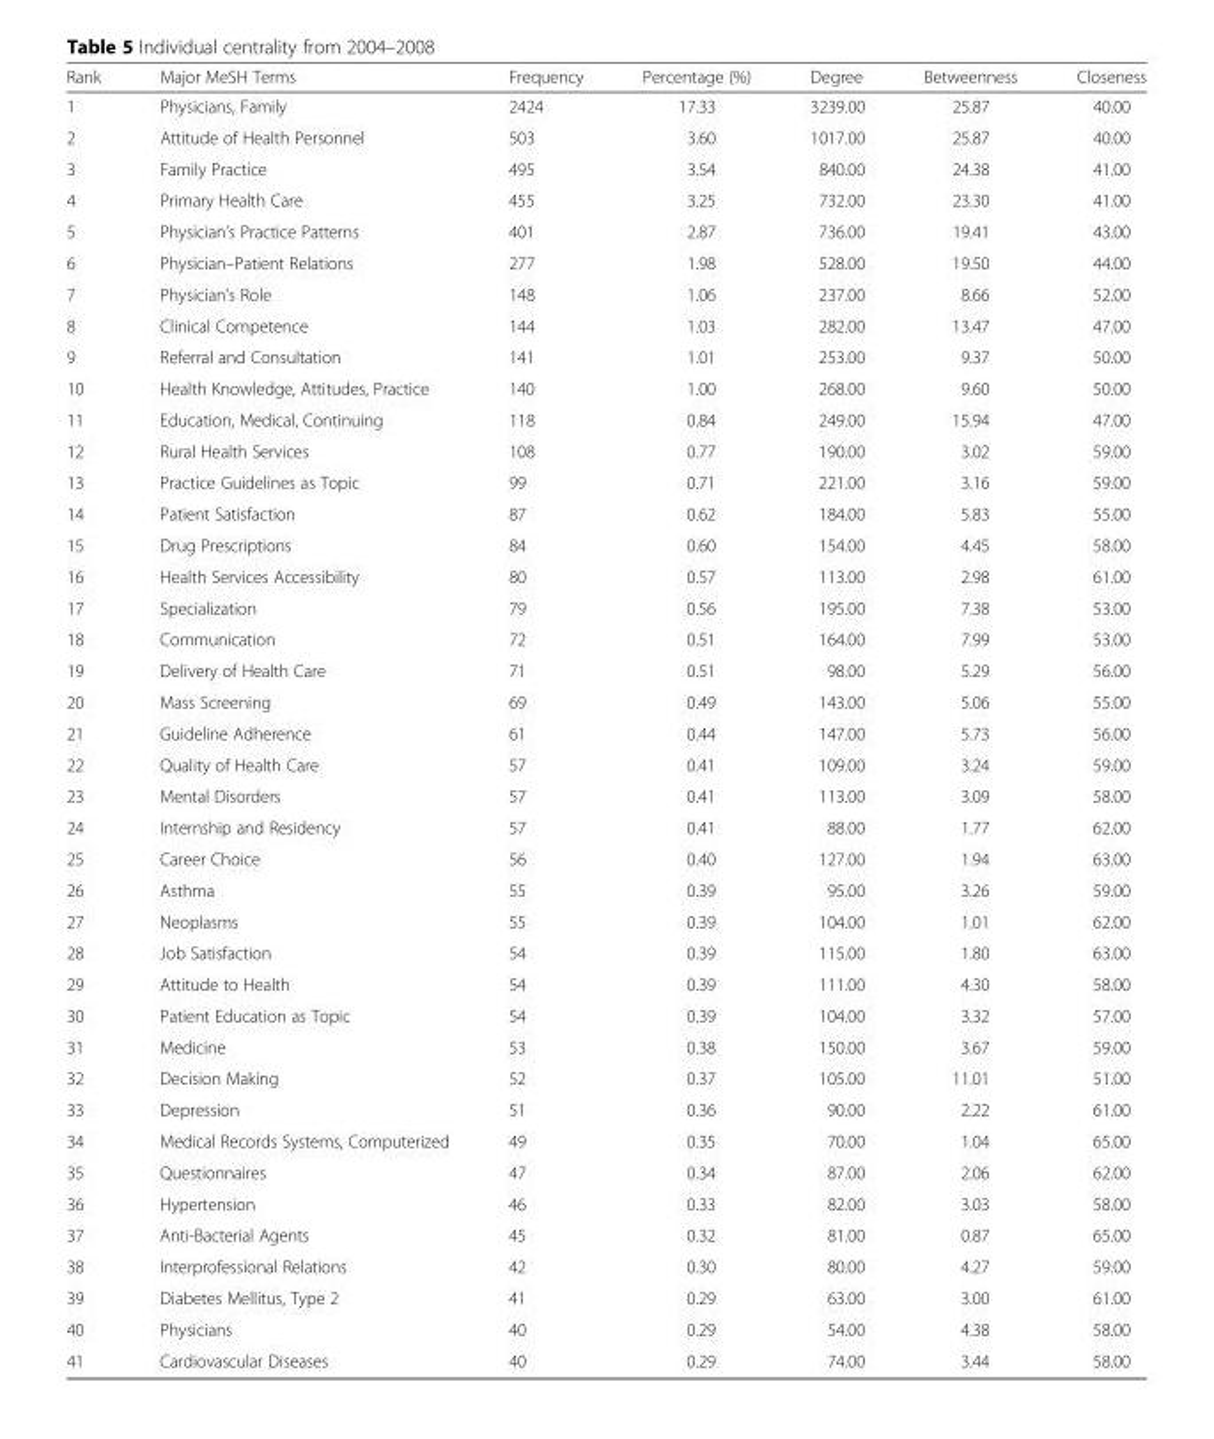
<table><thead><tr><td>Rank</td><td>Major MeSH Terms</td><td>Frequency</td><td>Percentage (%)</td><td>Degree</td><td>Betweenness</td><td>Closeness</td></tr></thead><tbody><tr><td>1</td><td>Physicians, Family</td><td>2424</td><td>17.33</td><td>3239.00</td><td>25.87</td><td>40.00</td></tr><tr><td>2</td><td>Attitude of Health Personnel</td><td>503</td><td>3.60</td><td>1017.00</td><td>25.87</td><td>40.00</td></tr><tr><td>3</td><td>Family Practice</td><td>495</td><td>3.54</td><td>840.00</td><td>24.38</td><td>41.00</td></tr><tr><td>4</td><td>Primary Health Care</td><td>455</td><td>3.25</td><td>732.00</td><td>23.30</td><td>41.00</td></tr><tr><td>5</td><td>Physician’s Practice Patterns</td><td>401</td><td>2.87</td><td>736.00</td><td>19.41</td><td>43.00</td></tr><tr><td>6</td><td>Physician–Patient Relations</td><td>277</td><td>1.98</td><td>528.00</td><td>19.50</td><td>44.00</td></tr><tr><td>7</td><td>Physician’s Role</td><td>148</td><td>1.06</td><td>237.00</td><td>8.66</td><td>52.00</td></tr><tr><td>8</td><td>Clinical Competence</td><td>144</td><td>1.03</td><td>282.00</td><td>13.47</td><td>47.00</td></tr><tr><td>9</td><td>Referral and Consultation</td><td>141</td><td>1.01</td><td>253.00</td><td>9.37</td><td>50.00</td></tr><tr><td>10</td><td>Health Knowledge, Attitudes, Practice</td><td>140</td><td>1.00</td><td>268.00</td><td>9.60</td><td>50.00</td></tr><tr><td>11</td><td>Education, Medical, Continuing</td><td>118</td><td>0.84</td><td>249.00</td><td>15.94</td><td>47.00</td></tr><tr><td>12</td><td>Rural Health Services</td><td>108</td><td>0.77</td><td>190.00</td><td>3.02</td><td>59.00</td></tr><tr><td>13</td><td>Practice Guidelines as Topic</td><td>99</td><td>0.71</td><td>221.00</td><td>3.16</td><td>59.00</td></tr><tr><td>14</td><td>Patient Satisfaction</td><td>87</td><td>0.62</td><td>184.00</td><td>5.83</td><td>55.00</td></tr><tr><td>15</td><td>Drug Prescriptions</td><td>84</td><td>0.60</td><td>154.00</td><td>4.45</td><td>58.00</td></tr><tr><td>16</td><td>Health Services Accessibility</td><td>80</td><td>0.57</td><td>113.00</td><td>2.98</td><td>61.00</td></tr><tr><td>17</td><td>Specialization</td><td>79</td><td>0.56</td><td>195.00</td><td>7.38</td><td>53.00</td></tr><tr><td>18</td><td>Communication</td><td>72</td><td>0.51</td><td>164.00</td><td>7.99</td><td>53.00</td></tr><tr><td>19</td><td>Delivery of Health Care</td><td>71</td><td>0.51</td><td>98.00</td><td>5.29</td><td>56.00</td></tr><tr><td>20</td><td>Mass Screening</td><td>69</td><td>0.49</td><td>143.00</td><td>5.06</td><td>55.00</td></tr><tr><td>21</td><td>Guideline Adherence</td><td>61</td><td>0.44</td><td>147.00</td><td>5.73</td><td>56.00</td></tr><tr><td>22</td><td>Quality of Health Care</td><td>57</td><td>0.41</td><td>109.00</td><td>3.24</td><td>59.00</td></tr><tr><td>23</td><td>Mental Disorders</td><td>57</td><td>0.41</td><td>113.00</td><td>3.09</td><td>58.00</td></tr><tr><td>24</td><td>Internship and Residency</td><td>57</td><td>0.41</td><td>88.00</td><td>1.77</td><td>62.00</td></tr><tr><td>25</td><td>Career Choice</td><td>56</td><td>0.40</td><td>127.00</td><td>1.94</td><td>63.00</td></tr><tr><td>26</td><td>Asthma</td><td>55</td><td>0.39</td><td>95.00</td><td>3.26</td><td>59.00</td></tr><tr><td>27</td><td>Neoplasms</td><td>55</td><td>0.39</td><td>104.00</td><td>1.01</td><td>62.00</td></tr><tr><td>28</td><td>Job Satisfaction</td><td>54</td><td>0.39</td><td>115.00</td><td>1.80</td><td>63.00</td></tr><tr><td>29</td><td>Attitude to Health</td><td>54</td><td>0.39</td><td>111.00</td><td>4.30</td><td>58.00</td></tr><tr><td>30</td><td>Patient Education as Topic</td><td>54</td><td>0.39</td><td>104.00</td><td>3.32</td><td>57.00</td></tr><tr><td>31</td><td>Medicine</td><td>53</td><td>0.38</td><td>150.00</td><td>3.67</td><td>59.00</td></tr><tr><td>32</td><td>Decision Making</td><td>52</td><td>0.37</td><td>105.00</td><td>11.01</td><td>51.00</td></tr><tr><td>33</td><td>Depression</td><td>51</td><td>0.36</td><td>90.00</td><td>2.22</td><td>61.00</td></tr><tr><td>34</td><td>Medical Records Systems, Computerized</td><td>49</td><td>0.35</td><td>70.00</td><td>1.04</td><td>65.00</td></tr><tr><td>35</td><td>Questionnaires</td><td>47</td><td>0.34</td><td>87.00</td><td>2.06</td><td>62.00</td></tr><tr><td>36</td><td>Hypertension</td><td>46</td><td>0.33</td><td>82.00</td><td>3.03</td><td>58.00</td></tr><tr><td>37</td><td>Anti-Bacterial Agents</td><td>45</td><td>0.32</td><td>81.00</td><td>0.87</td><td>65.00</td></tr><tr><td>38</td><td>Interprofessional Relations</td><td>42</td><td>0.30</td><td>80.00</td><td>4.27</td><td>59.00</td></tr><tr><td>39</td><td>Diabetes Mellitus, Type 2</td><td>41</td><td>0.29</td><td>63.00</td><td>3.00</td><td>61.00</td></tr><tr><td>40</td><td>Physicians</td><td>40</td><td>0.29</td><td>54.00</td><td>4.38</td><td>58.00</td></tr><tr><td>41</td><td>Cardiovascular Diseases</td><td>40</td><td>0.29</td><td>74.00</td><td>3.44</td><td>58.00</td></tr></tbody></table>